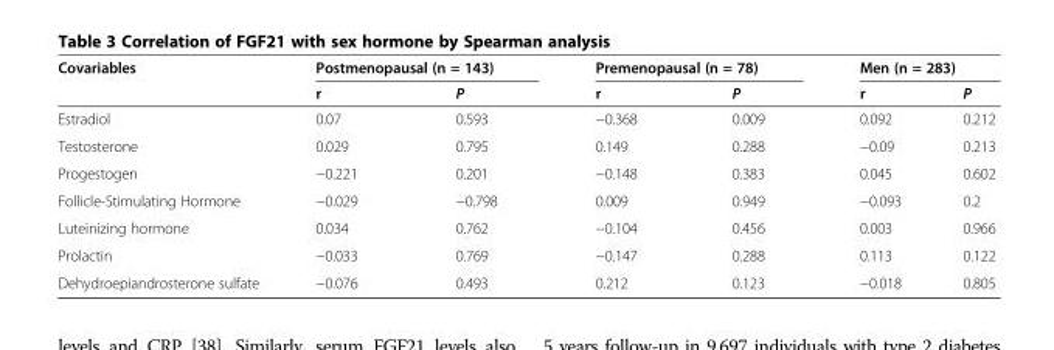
<table><thead><tr><td rowspan="2">Covariables</td><td colspan="2">Postmenopausal (n = 143)</td><td colspan="2">Premenopausal (n = 78)</td><td colspan="2">Men (n = 283)</td></tr><tr><td>r</td><td>P</td><td>r</td><td>P</td><td>r</td><td>P</td></tr></thead><tbody><tr><td>Estradiol</td><td>0.07</td><td>0.593</td><td>−0.368</td><td>0.009</td><td>0.092</td><td>0.212</td></tr><tr><td>Testosterone</td><td>0.029</td><td>0.795</td><td>0.149</td><td>0.288</td><td>−0.09</td><td>0.213</td></tr><tr><td>Progestogen</td><td>−0.221</td><td>0.201</td><td>−0.148</td><td>0.383</td><td>0.045</td><td>0.602</td></tr><tr><td>Follicle-Stimulating Hormone</td><td>−0.029</td><td>−0.798</td><td>0.009</td><td>0.949</td><td>−0.093</td><td>0.2</td></tr><tr><td>Luteinizing hormone</td><td>0.034</td><td>0.762</td><td>−0.104</td><td>0.456</td><td>0.003</td><td>0.966</td></tr><tr><td>Prolactin</td><td>−0.033</td><td>0.769</td><td>−0.147</td><td>0.288</td><td>0.113</td><td>0.122</td></tr><tr><td>Dehydroepiandrosterone sulfate</td><td>−0.076</td><td>0.493</td><td>0.212</td><td>0.123</td><td>−0.018</td><td>0.805</td></tr></tbody></table>